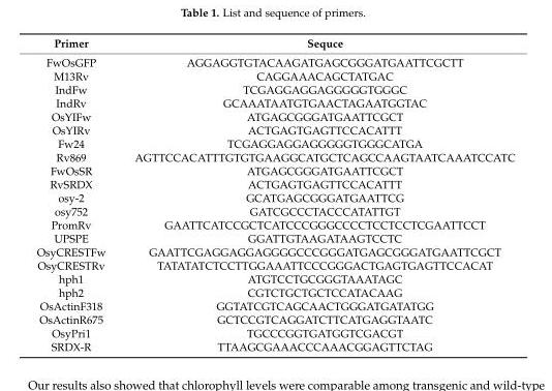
<table><thead><tr><td>Primer</td><td>Sequce</td></tr></thead><tbody><tr><td>FwOsGFP</td><td>AGGAGGTGTACAAGATGAGCGGGATGAATTCGCTT</td></tr><tr><td>M13Rv</td><td>CAGGAAACAGCTATGAC</td></tr><tr><td>IndFw</td><td>TCGAGGAGGAGGGGGTGGGC</td></tr><tr><td>IndRv</td><td>GCAAATAATGTGAACTAGAATGGTAC</td></tr><tr><td>OsYIFw</td><td>ATGAGCGGGATGAATTCGCT</td></tr><tr><td>OsYIRv</td><td>ACTGAGTGAGTTCCACATTT</td></tr><tr><td>Fw24</td><td>TCGAGGAGGAGGGGGTGGGCATGA</td></tr><tr><td>Rv869</td><td>AGTTCCACATTTGTGTGAAGGCATGCTCAGCCAAGTAATCAAATCCATC</td></tr><tr><td>FwOsSR</td><td>ATGAGCGGGATGAATTCGCT</td></tr><tr><td>RvSRDX</td><td>ACTGAGTGAGTTCCACATTT</td></tr><tr><td>osy-2</td><td>GCATGAGCGGGATGAATTCG</td></tr><tr><td>osy752</td><td>GATCGCCCTACCCATATTGT</td></tr><tr><td>PromRv</td><td>GAATTCATCCGCTCATCCCGGGCCCCTCCTCCTCGAATTCCT</td></tr><tr><td>UPSPE</td><td>GGATTGTAAGATAAGTCCTC</td></tr><tr><td>OsyCRESTFw</td><td>GAATTCGAGGAGGAGGGGCCCGGGATGAGCGGGATGAATTCGCT</td></tr><tr><td>OsyCRESTRv</td><td>TATATATCTCCTTGGAAATTCCCGGGACTGAGTGAGTTCCACAT</td></tr><tr><td>hph1</td><td>ATGTCCTGCGGGTAAATAGC</td></tr><tr><td>hph2</td><td>CGTCTGCTGCTCCATACAAG</td></tr><tr><td>OsActinF318</td><td>GGTATCGTCAGCAACTGGGATGATATGG</td></tr><tr><td>OsActinR675</td><td>GCTCCGTCAGGATCTTCATGAGGTAATC</td></tr><tr><td>OsyPri1</td><td>TGCCCGGTGATGGTCGACGT</td></tr><tr><td>SRDX-R</td><td>TTAAGCGAAACCCAAACGGAGTTCTAG</td></tr></tbody></table>